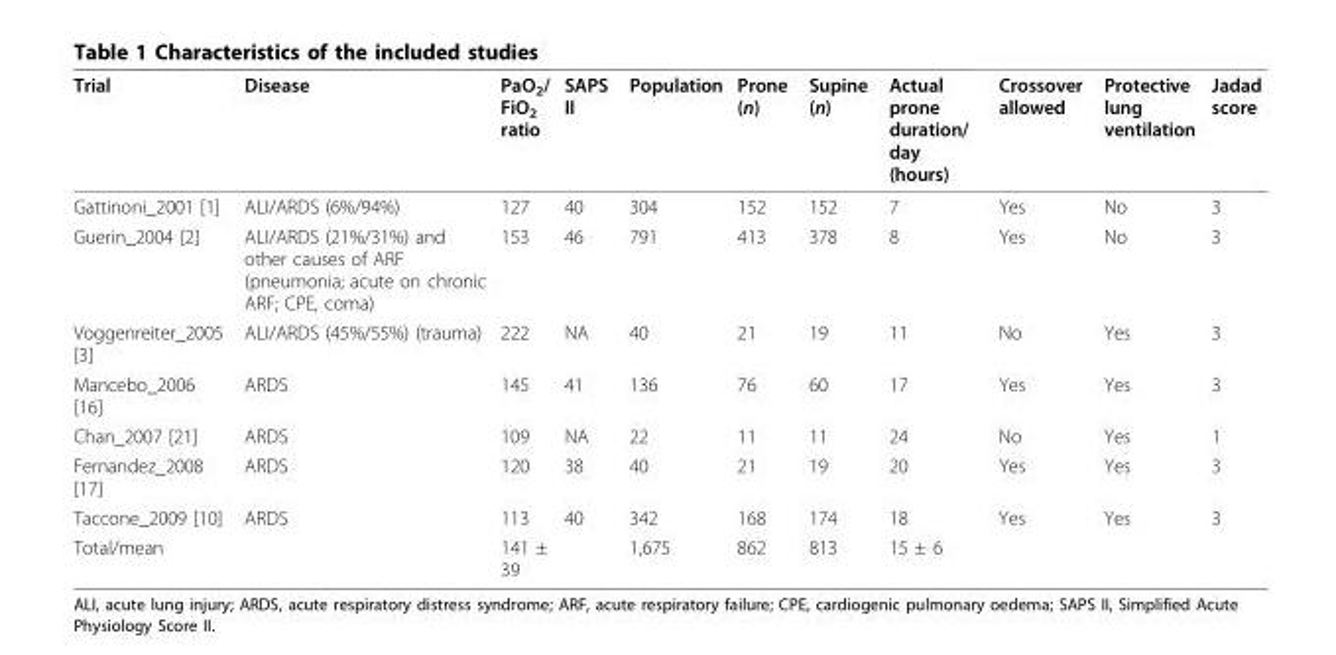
<table><thead><tr><td>Trial</td><td>Disease</td><td>PaO<sub>2</sub>/ FiO<sub>2</sub> ratio</td><td>SAPS II</td><td>Population</td><td>Prone (n)</td><td>Supine (n)</td><td>Actual prone duration/ day (hours)</td><td>Crossover allowed</td><td>Protective lung ventilation</td><td>Jadad score</td></tr></thead><tbody><tr><td>Gattinoni_2001 [1]</td><td>ALI/ARDS (6%/94%)</td><td>127</td><td>40</td><td>304</td><td>152</td><td>152</td><td>7</td><td>Yes</td><td>No</td><td>3</td></tr><tr><td>Guerin_2004 [2]</td><td>ALI/ARDS (21%/31%) and other causes of ARF (pneumonia; acute on chronic ARF; CPE, coma)</td><td>153</td><td>46</td><td>791</td><td>413</td><td>378</td><td>8</td><td>Yes</td><td>No</td><td>3</td></tr><tr><td>Voggenreiter_2005 [3]</td><td>ALI/ARDS (45%/55%) (trauma)</td><td>222</td><td>NA</td><td>40</td><td>21</td><td>19</td><td>11</td><td>No</td><td>Yes</td><td>3</td></tr><tr><td>Mancebo_2006 [16]</td><td>ARDS</td><td>145</td><td>41</td><td>136</td><td>76</td><td>60</td><td>17</td><td>Yes</td><td>Yes</td><td>3</td></tr><tr><td>Chan_2007 [21]</td><td>ARDS</td><td>109</td><td>NA</td><td>22</td><td>11</td><td>11</td><td>24</td><td>No</td><td>Yes</td><td>1</td></tr><tr><td>Fernandez_2008 [17]</td><td>ARDS</td><td>120</td><td>38</td><td>40</td><td>21</td><td>19</td><td>20</td><td>Yes</td><td>Yes</td><td>3</td></tr><tr><td>Taccone_2009 [10]</td><td>ARDS</td><td>113</td><td>40</td><td>342</td><td>168</td><td>174</td><td>18</td><td>Yes</td><td>Yes</td><td>3</td></tr><tr><td>Total/mean</td><td></td><td>141 ± 39</td><td></td><td>1,675</td><td>862</td><td>813</td><td>15 ± 6</td><td></td><td></td><td></td></tr></tbody></table>